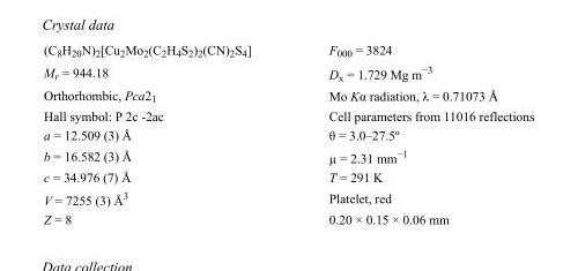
<table><tbody><tr><td>(C<sub>8</sub>H<sub>20</sub>N)<sub>2</sub>[Cu<sub>2</sub>Mo<sub>2</sub>(C<sub>2</sub>H<sub>4</sub>S<sub>2</sub>)<sub>2</sub>(CN)<sub>2</sub>S<sub>4</sub>]</td><td>F000 = 3824</td></tr><tr><td>M<sub>r</sub> = 944.18</td><td>D<sub>x</sub> = 1.729 Mg m<sup>−3</sup></td></tr><tr><td>Orthorhombic, Pca2<sub>1</sub></td><td>Mo Kα radiation, λ = 0.71073 Å</td></tr><tr><td>Hall symbol: P 2c -2ac</td><td>Cell parameters from 11016 reflections</td></tr><tr><td>a = 12.509 (3) Å</td><td>θ = 3.0–27.5º</td></tr><tr><td>b = 16.582 (3) Å</td><td>µ = 2.31 mm<sup>−1</sup></td></tr><tr><td>c = 34.976 (7) Å</td><td>T = 291 K</td></tr><tr><td>V = 7255 (3) Å<sup>3</sup></td><td>Platelet, red</td></tr><tr><td>Z = 8</td><td>0.20 × 0.15 × 0.06 mm</td></tr></tbody></table>